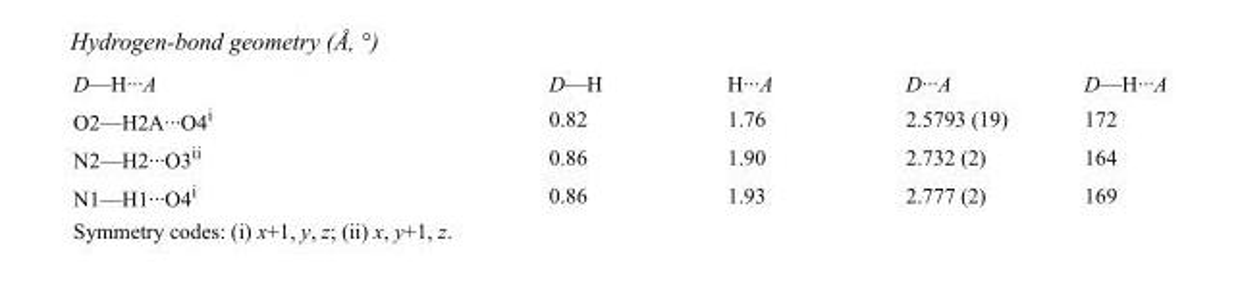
<table><tbody><tr><td>D—H···A</td><td>D—H</td><td>H···A</td><td>D···A</td><td>D—H···A</td></tr><tr><td>O2—H2A···O4<sup>i</sup></td><td>0.82</td><td>1.76</td><td>2.5793 (19)</td><td>172</td></tr><tr><td>N2—H2···O3<sup>ii</sup></td><td>0.86</td><td>1.90</td><td>2.732 (2)</td><td>164</td></tr><tr><td>N1—H1···O4<sup>i</sup></td><td>0.86</td><td>1.93</td><td>2.777 (2)</td><td>169</td></tr></tbody></table>